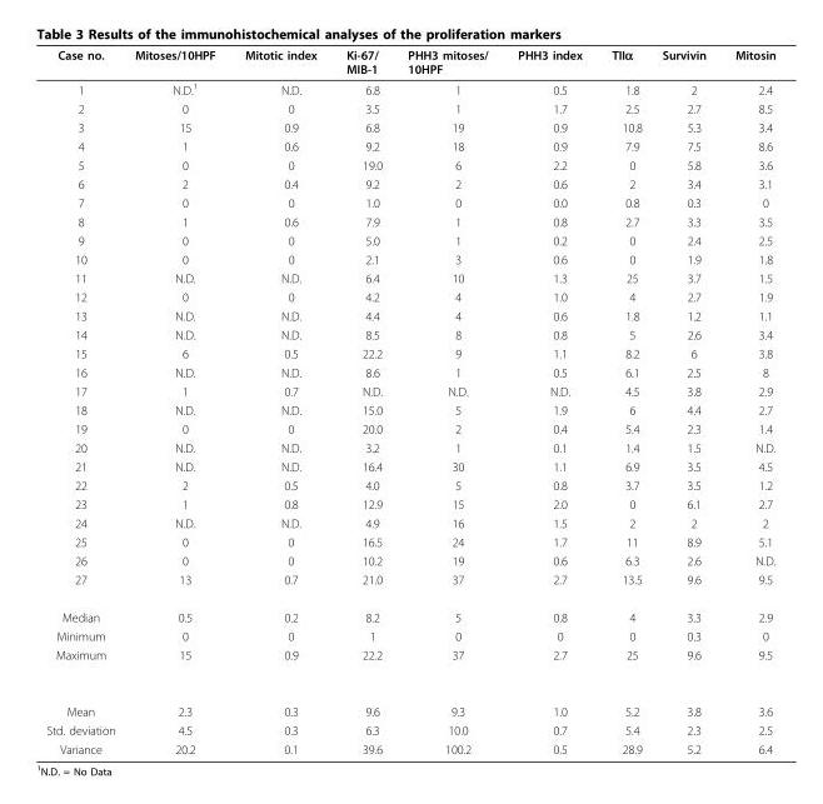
<table><thead><tr><td>Case no.</td><td>Mitoses/10HPF</td><td>Mitotic index</td><td>Ki-67/ MIB-1</td><td>PHH3 mitoses/ 10HPF</td><td>PHH3 index</td><td>TIIα</td><td>Survivin</td><td>Mitosin</td></tr></thead><tbody><tr><td>1</td><td>N.D.<sup>1</sup></td><td>N.D.</td><td>6.8</td><td>1</td><td>0.5</td><td>1.8</td><td>2</td><td>2.4</td></tr><tr><td>2</td><td>0</td><td>0</td><td>3.5</td><td>1</td><td>1.7</td><td>2.5</td><td>2.7</td><td>8.5</td></tr><tr><td>3</td><td>15</td><td>0.9</td><td>6.8</td><td>19</td><td>0.9</td><td>10.8</td><td>5.3</td><td>3.4</td></tr><tr><td>4</td><td>1</td><td>0.6</td><td>9.2</td><td>18</td><td>0.9</td><td>7.9</td><td>7.5</td><td>8.6</td></tr><tr><td>5</td><td>0</td><td>0</td><td>19.0</td><td>6</td><td>2.2</td><td>0</td><td>5.8</td><td>3.6</td></tr><tr><td>6</td><td>2</td><td>0.4</td><td>9.2</td><td>2</td><td>0.6</td><td>2</td><td>3.4</td><td>3.1</td></tr><tr><td>7</td><td>0</td><td>0</td><td>1.0</td><td>0</td><td>0.0</td><td>0.8</td><td>0.3</td><td>0</td></tr><tr><td>8</td><td>1</td><td>0.6</td><td>7.9</td><td>1</td><td>0.8</td><td>2.7</td><td>3.3</td><td>3.5</td></tr><tr><td>9</td><td>0</td><td>0</td><td>5.0</td><td>1</td><td>0.2</td><td>0</td><td>2.4</td><td>2.5</td></tr><tr><td>10</td><td>0</td><td>0</td><td>2.1</td><td>3</td><td>0.6</td><td>0</td><td>1.9</td><td>1.8</td></tr><tr><td>11</td><td>N.D.</td><td>N.D.</td><td>6.4</td><td>10</td><td>1.3</td><td>25</td><td>3.7</td><td>1.5</td></tr><tr><td>12</td><td>0</td><td>0</td><td>4.2</td><td>4</td><td>1.0</td><td>4</td><td>2.7</td><td>1.9</td></tr><tr><td>13</td><td>N.D.</td><td>N.D.</td><td>4.4</td><td>4</td><td>0.6</td><td>1.8</td><td>1.2</td><td>1.1</td></tr><tr><td>14</td><td>N.D.</td><td>N.D.</td><td>8.5</td><td>8</td><td>0.8</td><td>5</td><td>2.6</td><td>3.4</td></tr><tr><td>15</td><td>6</td><td>0.5</td><td>22.2</td><td>9</td><td>1.1</td><td>8.2</td><td>6</td><td>3.8</td></tr><tr><td>16</td><td>N.D.</td><td>N.D.</td><td>8.6</td><td>1</td><td>0.5</td><td>6.1</td><td>2.5</td><td>8</td></tr><tr><td>17</td><td>1</td><td>0.7</td><td>N.D.</td><td>N.D.</td><td>N.D.</td><td>4.5</td><td>3.8</td><td>2.9</td></tr><tr><td>18</td><td>N.D.</td><td>N.D.</td><td>15.0</td><td>5</td><td>1.9</td><td>6</td><td>4.4</td><td>2.7</td></tr><tr><td>19</td><td>0</td><td>0</td><td>20.0</td><td>2</td><td>0.4</td><td>5.4</td><td>2.3</td><td>1.4</td></tr><tr><td>20</td><td>N.D.</td><td>N.D.</td><td>3.2</td><td>1</td><td>0.1</td><td>1.4</td><td>1.5</td><td>N.D.</td></tr><tr><td>21</td><td>N.D.</td><td>N.D.</td><td>16.4</td><td>30</td><td>1.1</td><td>6.9</td><td>3.5</td><td>4.5</td></tr><tr><td>22</td><td>2</td><td>0.5</td><td>4.0</td><td>5</td><td>0.8</td><td>3.7</td><td>3.5</td><td>1.2</td></tr><tr><td>23</td><td>1</td><td>0.8</td><td>12.9</td><td>15</td><td>2.0</td><td>0</td><td>6.1</td><td>2.7</td></tr><tr><td>24</td><td>N.D.</td><td>N.D.</td><td>4.9</td><td>16</td><td>1.5</td><td>2</td><td>2</td><td>2</td></tr><tr><td>25</td><td>0</td><td>0</td><td>16.5</td><td>24</td><td>1.7</td><td>11</td><td>8.9</td><td>5.1</td></tr><tr><td>26</td><td>0</td><td>0</td><td>10.2</td><td>19</td><td>0.6</td><td>6.3</td><td>2.6</td><td>N.D.</td></tr><tr><td>27</td><td>13</td><td>0.7</td><td>21.0</td><td>37</td><td>2.7</td><td>13.5</td><td>9.6</td><td>9.5</td></tr><tr><td>Median</td><td>0.5</td><td>0.2</td><td>8.2</td><td>5</td><td>0.8</td><td>4</td><td>3.3</td><td>2.9</td></tr><tr><td>Minimum</td><td>0</td><td>0</td><td>1</td><td>0</td><td>0</td><td>0</td><td>0.3</td><td>0</td></tr><tr><td>Maximum</td><td>15</td><td>0.9</td><td>22.2</td><td>37</td><td>2.7</td><td>25</td><td>9.6</td><td>9.5</td></tr><tr><td>Mean</td><td>2.3</td><td>0.3</td><td>9.6</td><td>9.3</td><td>1.0</td><td>5.2</td><td>3.8</td><td>3.6</td></tr><tr><td>Std. deviation</td><td>4.5</td><td>0.3</td><td>6.3</td><td>10.0</td><td>0.7</td><td>5.4</td><td>2.3</td><td>2.5</td></tr><tr><td>Variance</td><td>20.2</td><td>0.1</td><td>39.6</td><td>100.2</td><td>0.5</td><td>28.9</td><td>5.2</td><td>6.4</td></tr></tbody></table>